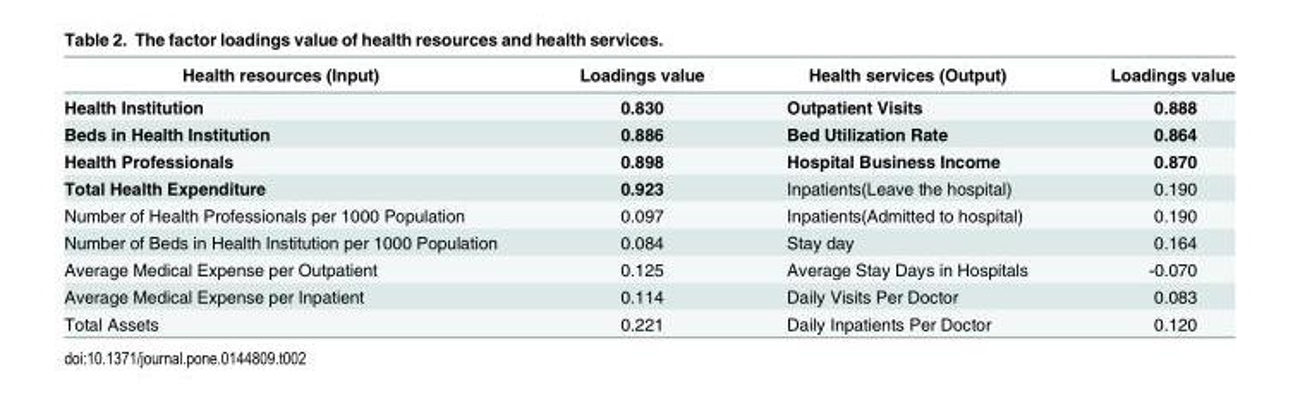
<table><thead><tr><td>Health resources (Input)</td><td>Loadings value</td><td>Health services (Output)</td><td>Loadings value</td></tr></thead><tbody><tr><td>Health Institution</td><td>0.830</td><td>Outpatient Visits</td><td>0.888</td></tr><tr><td>Beds in Health Institution</td><td>0.886</td><td>Bed Utilization Rate</td><td>0.864</td></tr><tr><td>Health Professionals</td><td>0.898</td><td>Hospital Business Income</td><td>0.870</td></tr><tr><td>Total Health Expenditure</td><td>0.923</td><td>Inpatients(Leave the hospital)</td><td>0.190</td></tr><tr><td>Number of Health Professionals per 1000 Population</td><td>0.097</td><td>Inpatients(Admitted to hospital)</td><td>0.190</td></tr><tr><td>Number of Beds in Health Institution per 1000 Population</td><td>0.084</td><td>Stay day</td><td>0.164</td></tr><tr><td>Average Medical Expense per Outpatient</td><td>0.125</td><td>Average Stay Days in Hospitals</td><td>-0.070</td></tr><tr><td>Average Medical Expense per Inpatient</td><td>0.114</td><td>Daily Visits Per Doctor</td><td>0.083</td></tr><tr><td>Total Assets</td><td>0.221</td><td>Daily Inpatients Per Doctor</td><td>0.120</td></tr></tbody></table>